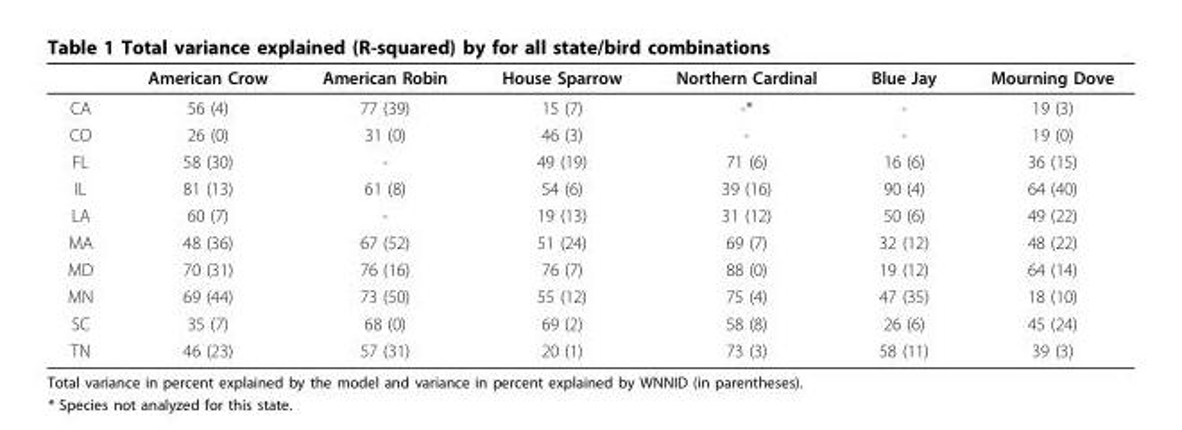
<table><thead><tr><td></td><td>American Crow</td><td>American Robin</td><td>House Sparrow</td><td>Northern Cardinal</td><td>Blue Jay</td><td>Mourning Dove</td></tr></thead><tbody><tr><td>CA</td><td>56 (4)</td><td>77 (39)</td><td>15 (7)</td><td>-*</td><td>-</td><td>19 (3)</td></tr><tr><td>CO</td><td>26 (0)</td><td>31 (0)</td><td>46 (3)</td><td>-</td><td>-</td><td>19 (0)</td></tr><tr><td>FL</td><td>58 (30)</td><td>-</td><td>49 (19)</td><td>71 (6)</td><td>16 (6)</td><td>36 (15)</td></tr><tr><td>IL</td><td>81 (13)</td><td>61 (8)</td><td>54 (6)</td><td>39 (16)</td><td>90 (4)</td><td>64 (40)</td></tr><tr><td>LA</td><td>60 (7)</td><td>-</td><td>19 (13)</td><td>31 (12)</td><td>50 (6)</td><td>49 (22)</td></tr><tr><td>MA</td><td>48 (36)</td><td>67 (52)</td><td>51 (24)</td><td>69 (7)</td><td>32 (12)</td><td>48 (22)</td></tr><tr><td>MD</td><td>70 (31)</td><td>76 (16)</td><td>76 (7)</td><td>88 (0)</td><td>19 (12)</td><td>64 (14)</td></tr><tr><td>MN</td><td>69 (44)</td><td>73 (50)</td><td>55 (12)</td><td>75 (4)</td><td>47 (35)</td><td>18 (10)</td></tr><tr><td>SC</td><td>35 (7)</td><td>68 (0)</td><td>69 (2)</td><td>58 (8)</td><td>26 (6)</td><td>45 (24)</td></tr><tr><td>TN</td><td>46 (23)</td><td>57 (31)</td><td>20 (1)</td><td>73 (3)</td><td>58 (11)</td><td>39 (3)</td></tr></tbody></table>